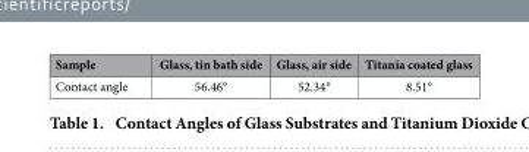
<table><thead><tr><td>Sample</td><td>Glass, tin bath side</td><td>Glass, air side</td><td>Titania coated glass</td></tr></thead><tbody><tr><td>Contact angle</td><td>56.46°</td><td>52.34°</td><td>8.51°</td></tr></tbody></table>